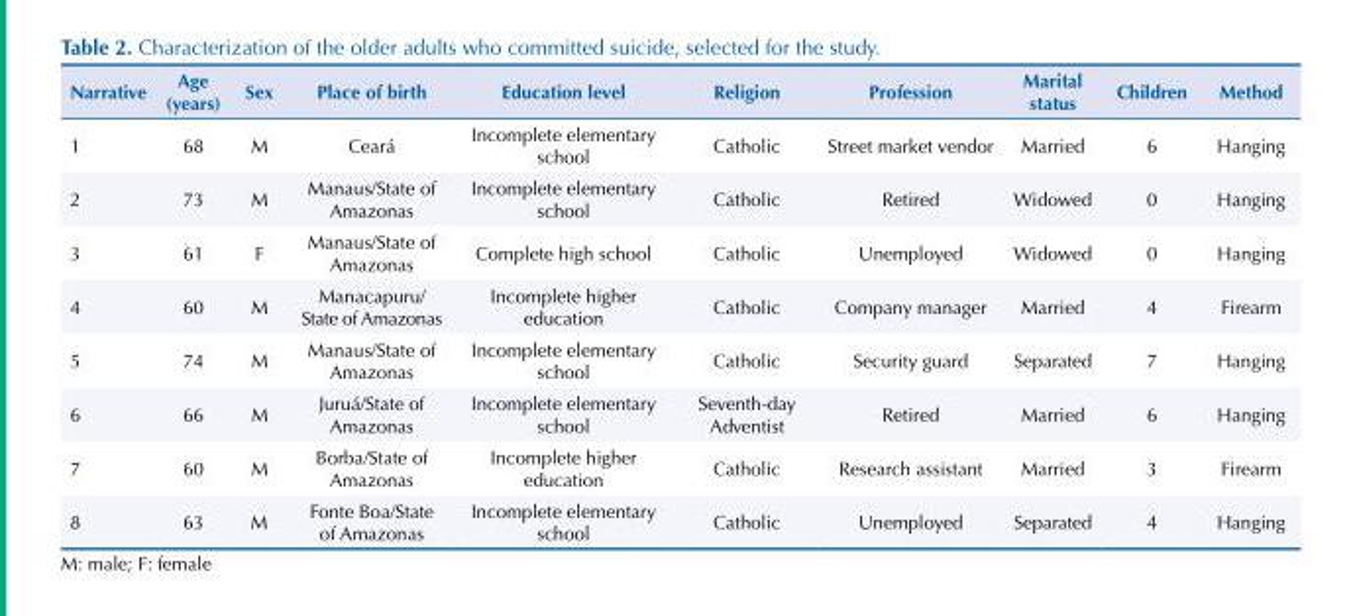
<table><thead><tr><td>Narrative</td><td>Age (years)</td><td>Sex</td><td>Place of birth</td><td>Education level</td><td>Religion</td><td>Profession</td><td>Marital status</td><td>Children</td><td>Method</td></tr></thead><tbody><tr><td>1</td><td>68</td><td>M</td><td>Ceará</td><td>Incomplete elementary school</td><td>Catholic</td><td>Street market vendor</td><td>Married</td><td>6</td><td>Hanging</td></tr><tr><td>2</td><td>73</td><td>M</td><td>Manaus/State of Amazonas</td><td>Incomplete elementary school</td><td>Catholic</td><td>Retired</td><td>Widowed</td><td>0</td><td>Hanging</td></tr><tr><td>3</td><td>61</td><td>F</td><td>Manaus/State of Amazonas</td><td>Complete high school</td><td>Catholic</td><td>Unemployed</td><td>Widowed</td><td>0</td><td>Hanging</td></tr><tr><td>4</td><td>60</td><td>M</td><td>Manacapuru/ State of Amazonas</td><td>Incomplete higher education</td><td>Catholic</td><td>Company manager</td><td>Married</td><td>4</td><td>Firearm</td></tr><tr><td>5</td><td>74</td><td>M</td><td>Manaus/State of Amazonas</td><td>Incomplete elementary school</td><td>Catholic</td><td>Security guard</td><td>Separated</td><td>7</td><td>Hanging</td></tr><tr><td>6</td><td>66</td><td>M</td><td>Juruá/State of Amazonas</td><td>Incomplete elementary school</td><td>Seventh-day Adventist</td><td>Retired</td><td>Married</td><td>6</td><td>Hanging</td></tr><tr><td>7</td><td>60</td><td>M</td><td>Borba/State of Amazonas</td><td>Incomplete higher education</td><td>Catholic</td><td>Research assistant</td><td>Married</td><td>3</td><td>Firearm</td></tr><tr><td>8</td><td>63</td><td>M</td><td>Fonte Boa/State of Amazonas</td><td>Incomplete elementary school</td><td>Catholic</td><td>Unemployed</td><td>Separated</td><td>4</td><td>Hanging</td></tr></tbody></table>